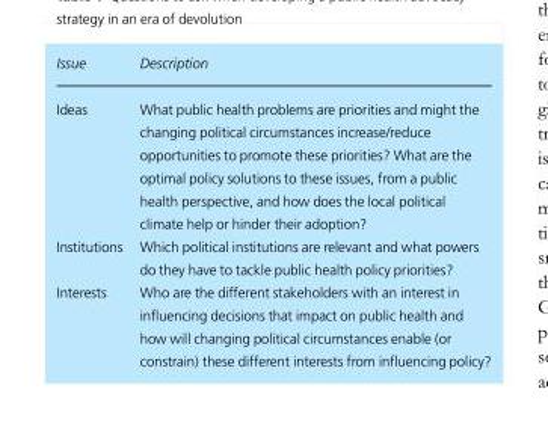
<table><thead><tr><td>Issue</td><td>Description</td></tr></thead><tbody><tr><td>Ideas</td><td>What public health problems are priorities and might the changing political circumstances increase/reduce opportunities to promote these priorities? What are the optimal policy solutions to these issues, from a public health perspective, and how does the local political climate help or hinder their adoption?</td></tr><tr><td>Institutions</td><td>Which political institutions are relevant and what powers do they have to tackle public health policy priorities?</td></tr><tr><td>Interests</td><td>Who are the different stakeholders with an interest in influencing decisions that impact on public health and how will changing political circumstances enable (or constrain) these different interests from influencing policy?</td></tr></tbody></table>